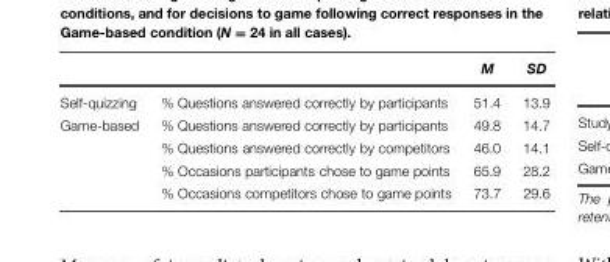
<table><thead><tr><td></td><td></td><td>M</td><td>SD</td></tr></thead><tbody><tr><td>Self-quizzing</td><td>% Questions answered correctly by participants</td><td>51.4</td><td>13.9</td></tr><tr><td rowspan="4">Game-based</td><td>% Questions answered correctly by participants</td><td>49.8</td><td>14.7</td></tr><tr><td>% Questions answered correctly by competitors</td><td>46.0</td><td>14.1</td></tr><tr><td>% Occasions participants chose to game points</td><td>65.9</td><td>28.2</td></tr><tr><td>% Occasions competitors chose to game points</td><td>73.7</td><td>29.6</td></tr></tbody></table>